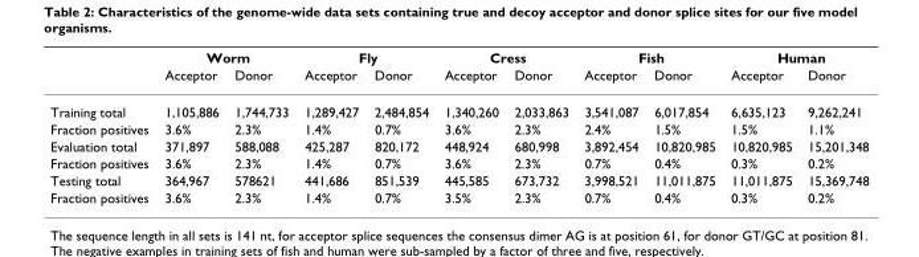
<table><thead><tr><td rowspan="2"></td><td colspan="2">Worm</td><td colspan="2">Fly</td><td colspan="2">Cress</td><td colspan="2">Fish</td><td colspan="2">Human</td></tr><tr><td>Acceptor</td><td>Donor</td><td>Acceptor</td><td>Donor</td><td>Acceptor</td><td>Donor</td><td>Acceptor</td><td>Donor</td><td>Acceptor</td><td>Donor</td></tr></thead><tbody><tr><td>Training total</td><td>1,105,886</td><td>1,744,733</td><td>1,289,427</td><td>2,484,854</td><td>1,340,260</td><td>2,033,863</td><td>3,541,087</td><td>6,017,854</td><td>6,635,123</td><td>9,262,241</td></tr><tr><td>Fraction positives</td><td>3.6%</td><td>2.3%</td><td>1.4%</td><td>0.7%</td><td>3.6%</td><td>2.3%</td><td>2.4%</td><td>1.5%</td><td>1.5%</td><td>1.1%</td></tr><tr><td>Evaluation total</td><td>371,897</td><td>588,088</td><td>425,287</td><td>820,172</td><td>448,924</td><td>680,998</td><td>3,892,454</td><td>10,820,985</td><td>10,820,985</td><td>15,201,348</td></tr><tr><td>Fraction positives</td><td>3.6%</td><td>2.3%</td><td>1.4%</td><td>0.7%</td><td>3.6%</td><td>2.3%</td><td>0.7%</td><td>0.4%</td><td>0.3%</td><td>0.2%</td></tr><tr><td>Testing total</td><td>364,967</td><td>578621</td><td>441,686</td><td>851,539</td><td>445,585</td><td>673,732</td><td>3,998,521</td><td>11,011,875</td><td>11,011,875</td><td>15,369,748</td></tr><tr><td>Fraction positives</td><td>3.6%</td><td>2.3%</td><td>1.4%</td><td>0.7%</td><td>3.5%</td><td>2.3%</td><td>0.7%</td><td>0.4%</td><td>0.3%</td><td>0.2%</td></tr></tbody></table>